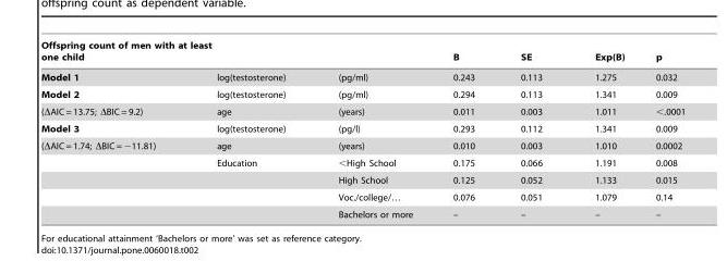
<table><thead><tr><td>Offspring count of men with at least one child</td><td></td><td></td><td>B</td><td>SE</td><td>Exp(B)</td><td>p</td></tr></thead><tbody><tr><td>Model 1</td><td>log(testosterone)</td><td>(pg/ml)</td><td>0.243</td><td>0.113</td><td>1.275</td><td>0.032</td></tr><tr><td>Model 2</td><td>log(testosterone)</td><td>(pg/ml)</td><td>0.294</td><td>0.113</td><td>1.341</td><td>0.009</td></tr><tr><td>(ΔAIC = 13.75; ΔBIC = 9.2)</td><td>age</td><td>(years)</td><td>0.011</td><td>0.003</td><td>1.011</td><td>&lt;.0001</td></tr><tr><td>Model 3</td><td>log(testosterone)</td><td>(pg/l)</td><td>0.293</td><td>0.112</td><td>1.341</td><td>0.009</td></tr><tr><td rowspan="5">(ΔAIC = 1.74; ΔBIC = −11.81)</td><td>age</td><td>(years)</td><td>0.010</td><td>0.003</td><td>1.010</td><td>0.0002</td></tr><tr><td>Education</td><td>&lt;High School</td><td>0.175</td><td>0.066</td><td>1.191</td><td>0.008</td></tr><tr><td></td><td>High School</td><td>0.125</td><td>0.052</td><td>1.133</td><td>0.015</td></tr><tr><td></td><td>Voc./college/…</td><td>0.076</td><td>0.051</td><td>1.079</td><td>0.14</td></tr><tr><td></td><td>Bachelors or more</td><td>–</td><td>–</td><td>–</td><td>–</td></tr></tbody></table>